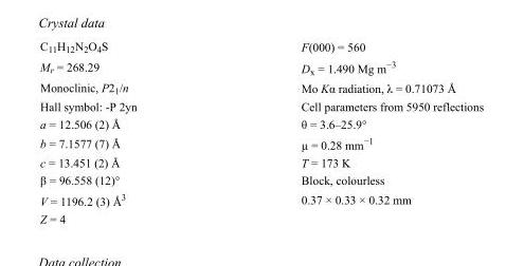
<table><tbody><tr><td>C<sub>11</sub>H<sub>12</sub>N<sub>2</sub>O<sub>4</sub>S</td><td>F(000) = 560</td></tr><tr><td>M<sub>r</sub> = 268.29</td><td>D<sub>x</sub> = 1.490 Mg m<sup>−3</sup></td></tr><tr><td>Monoclinic, P2<sub>1</sub>/n</td><td>Mo Kα radiation, λ = 0.71073 Å</td></tr><tr><td>Hall symbol: -P 2yn</td><td>Cell parameters from 5950 reflections</td></tr><tr><td>a = 12.506 (2) Å</td><td>θ = 3.6–25.9°</td></tr><tr><td>b = 7.1577 (7) Å</td><td>µ = 0.28 mm<sup>−1</sup></td></tr><tr><td>c = 13.451 (2) Å</td><td>T = 173 K</td></tr><tr><td>β = 96.558 (12)°</td><td>Block, colourless</td></tr><tr><td>V = 1196.2 (3) Å<sup>3</sup></td><td>0.37 × 0.33 × 0.32 mm</td></tr><tr><td>Z = 4</td><td></td></tr></tbody></table>